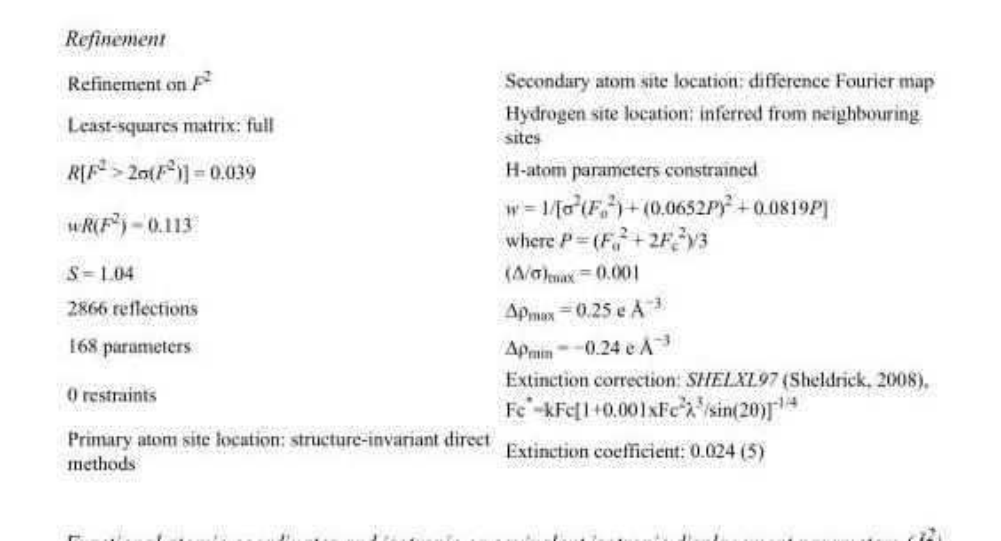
<table><tbody><tr><td>Refinement on F<sup>2</sup></td><td>Secondary atom site location: difference Fourier map</td></tr><tr><td>Least-squares matrix: full</td><td>Hydrogen site location: inferred from neighbouring sites</td></tr><tr><td>R[F<sup>2</sup> &gt; 2σ(F<sup>2</sup>)] = 0.039</td><td>H-atom parameters constrained</td></tr><tr><td>wR(F<sup>2</sup>) = 0.113</td><td>w = 1/[σ<sup>2</sup>(F<sub>o</sub> <sup>2</sup>) + (0.0652P)<sup>2</sup> + 0.0819P] where P = (F<sub>o</sub> <sup>2</sup> + 2F<sub>c</sub> <sup>2</sup>)/3</td></tr><tr><td>S = 1.04</td><td>(Δ/σ)<sub>max</sub> = 0.001</td></tr><tr><td>2866 reflections</td><td>Δρ<sub>max</sub> = 0.25 e Å<sup>−3</sup></td></tr><tr><td>168 parameters</td><td>Δρ<sub>min</sub> = −0.24 e Å<sup>−3</sup></td></tr><tr><td>0 restraints</td><td>Extinction correction: SHELXL97 (Sheldrick, 2008), Fc*=kFc[1+0.001xFc<sup>2</sup>λ<sup>3</sup>/sin(2θ)]<sup>-1/4</sup></td></tr><tr><td>Primary atom site location: structure-invariant direct methods</td><td>Extinction coefficient: 0.024 (5)</td></tr></tbody></table>